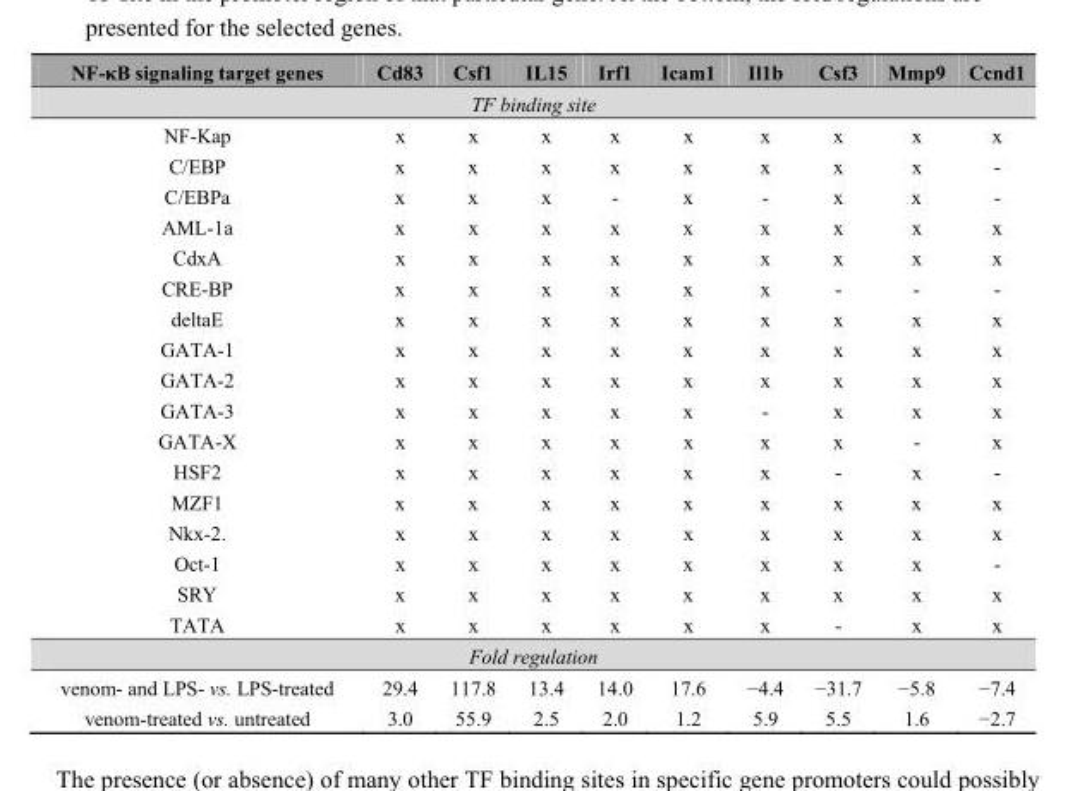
<table><thead><tr><td>NF-κB signaling target genes</td><td>Cd83</td><td>Csf1</td><td>IL15</td><td>Irf1</td><td>Icam1</td><td>Il1b</td><td>Csf3</td><td>Mmp9</td><td>Ccnd1</td></tr></thead><tbody><tr><td colspan="10">TF binding site</td></tr><tr><td>NF-Kap</td><td>x</td><td>x</td><td>x</td><td>x</td><td>x</td><td>x</td><td>x</td><td>x</td><td>x</td></tr><tr><td>C/EBP</td><td>x</td><td>x</td><td>x</td><td>x</td><td>x</td><td>x</td><td>x</td><td>x</td><td>-</td></tr><tr><td>C/EBPa</td><td>x</td><td>x</td><td>x</td><td>-</td><td>x</td><td>-</td><td>x</td><td>x</td><td>-</td></tr><tr><td>AML-1a</td><td>x</td><td>x</td><td>x</td><td>x</td><td>x</td><td>x</td><td>x</td><td>x</td><td>x</td></tr><tr><td>CdxA</td><td>x</td><td>x</td><td>x</td><td>x</td><td>x</td><td>x</td><td>x</td><td>x</td><td>x</td></tr><tr><td>CRE-BP</td><td>x</td><td>x</td><td>x</td><td>x</td><td>x</td><td>x</td><td>-</td><td>-</td><td>-</td></tr><tr><td>deltaE</td><td>x</td><td>x</td><td>x</td><td>x</td><td>x</td><td>x</td><td>x</td><td>x</td><td>x</td></tr><tr><td>GATA-1</td><td>x</td><td>x</td><td>x</td><td>x</td><td>x</td><td>x</td><td>x</td><td>x</td><td>x</td></tr><tr><td>GATA-2</td><td>x</td><td>x</td><td>x</td><td>x</td><td>x</td><td>x</td><td>x</td><td>x</td><td>x</td></tr><tr><td>GATA-3</td><td>x</td><td>x</td><td>x</td><td>x</td><td>x</td><td>-</td><td>x</td><td>x</td><td>x</td></tr><tr><td>GATA-X</td><td>x</td><td>x</td><td>x</td><td>x</td><td>x</td><td>x</td><td>x</td><td>-</td><td>x</td></tr><tr><td>HSF2</td><td>x</td><td>x</td><td>x</td><td>x</td><td>x</td><td>x</td><td>-</td><td>x</td><td>-</td></tr><tr><td>MZF1</td><td>x</td><td>x</td><td>x</td><td>x</td><td>x</td><td>x</td><td>x</td><td>x</td><td>x</td></tr><tr><td>Nkx-2.</td><td>x</td><td>x</td><td>x</td><td>x</td><td>x</td><td>x</td><td>x</td><td>x</td><td>x</td></tr><tr><td>Oct-1</td><td>x</td><td>x</td><td>x</td><td>x</td><td>x</td><td>x</td><td>x</td><td>x</td><td>-</td></tr><tr><td>SRY</td><td>x</td><td>x</td><td>x</td><td>x</td><td>x</td><td>x</td><td>x</td><td>x</td><td>x</td></tr><tr><td>TATA</td><td>x</td><td>x</td><td>x</td><td>x</td><td>x</td><td>x</td><td>-</td><td>x</td><td>x</td></tr><tr><td colspan="10">Fold regulation</td></tr><tr><td>venom- and LPS- vs. LPS-treated</td><td>29.4</td><td>117.8</td><td>13.4</td><td>14.0</td><td>17.6</td><td>−4.4</td><td>−31.7</td><td>−5.8</td><td>−7.4</td></tr><tr><td>venom-treated vs. untreated</td><td>3.0</td><td>55.9</td><td>2.5</td><td>2.0</td><td>1.2</td><td>5.9</td><td>5.5</td><td>1.6</td><td>−2.7</td></tr></tbody></table>